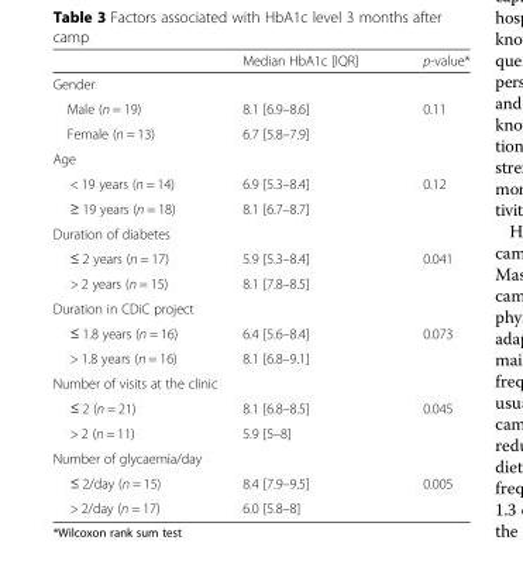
<table><thead><tr><td></td><td>Median HbA1c [IQR]</td><td>p-value*</td></tr></thead><tbody><tr><td colspan="3">Gender</td></tr><tr><td>Male (n = 19)</td><td>8.1 [6.9–8.6]</td><td>0.11</td></tr><tr><td>Female (n = 13)</td><td>6.7 [5.8–7.9]</td><td></td></tr><tr><td colspan="3">Age</td></tr><tr><td>&lt; 19 years (n = 14)</td><td>6.9 [5.3–8.4]</td><td>0.12</td></tr><tr><td>≥ 19 years (n = 18)</td><td>8.1 [6.7–8.7]</td><td></td></tr><tr><td colspan="3">Duration of diabetes</td></tr><tr><td>≤ 2 years (n = 17)</td><td>5.9 [5.3–8.4]</td><td>0.041</td></tr><tr><td>&gt; 2 years (n = 15)</td><td>8.1 [7.8–8.5]</td><td></td></tr><tr><td colspan="3">Duration in CDiC project</td></tr><tr><td>≤ 1.8 years (n = 16)</td><td>6.4 [5.6–8.4]</td><td>0.073</td></tr><tr><td>&gt; 1.8 years (n = 16)</td><td>8.1 [6.8–9.1]</td><td></td></tr><tr><td colspan="3">Number of visits at the clinic</td></tr><tr><td>≤ 2 (n = 21)</td><td>8.1 [6.8–8.5]</td><td>0.045</td></tr><tr><td>&gt; 2 (n = 11)</td><td>5.9 [5–8]</td><td></td></tr><tr><td colspan="3">Number of glycaemia/day</td></tr><tr><td>≤ 2/day (n = 15)</td><td>8.4 [7.9–9.5]</td><td>0.005</td></tr><tr><td>&gt; 2/day (n = 17)</td><td>6.0 [5.8–8]</td><td></td></tr></tbody></table>